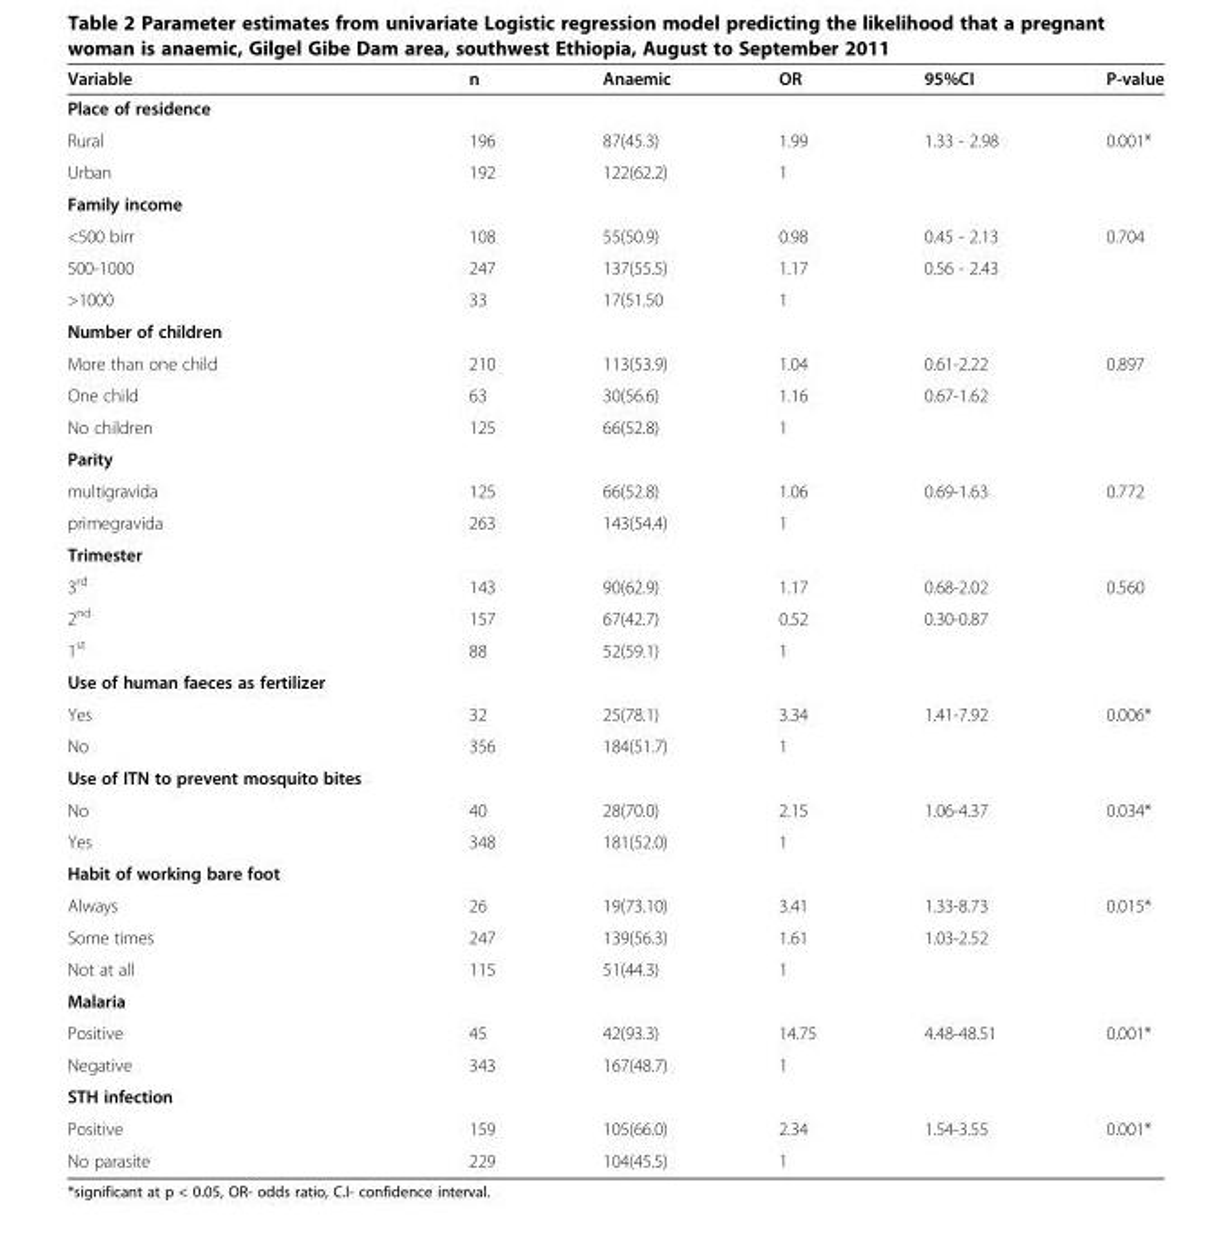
<table><thead><tr><td>Variable</td><td>n</td><td>Anaemic</td><td>OR</td><td>95%CI</td><td>P-value</td></tr></thead><tbody><tr><td colspan="6">Place of residence</td></tr><tr><td>Rural</td><td>196</td><td>87(45.3)</td><td>1.99</td><td>1.33 - 2.98</td><td>0.001*</td></tr><tr><td>Urban</td><td>192</td><td>122(62.2)</td><td>1</td><td></td><td></td></tr><tr><td colspan="6">Family income</td></tr><tr><td>&lt;500 birr</td><td>108</td><td>55(50.9)</td><td>0.98</td><td>0.45 - 2.13</td><td>0.704</td></tr><tr><td>500-1000</td><td>247</td><td>137(55.5)</td><td>1.17</td><td>0.56 - 2.43</td><td></td></tr><tr><td>&gt;1000</td><td>33</td><td>17(51.50</td><td>1</td><td></td><td></td></tr><tr><td colspan="6">Number of children</td></tr><tr><td>More than one child</td><td>210</td><td>113(53.9)</td><td>1.04</td><td>0.61-2.22</td><td>0.897</td></tr><tr><td>One child</td><td>63</td><td>30(56.6)</td><td>1.16</td><td>0.67-1.62</td><td></td></tr><tr><td>No children</td><td>125</td><td>66(52.8)</td><td>1</td><td></td><td></td></tr><tr><td colspan="6">Parity</td></tr><tr><td>multigravida</td><td>125</td><td>66(52.8)</td><td>1.06</td><td>0.69-1.63</td><td>0.772</td></tr><tr><td>primegravida</td><td>263</td><td>143(54.4)</td><td>1</td><td></td><td></td></tr><tr><td colspan="6">Trimester</td></tr><tr><td>3<sup>rd</sup></td><td>143</td><td>90(62.9)</td><td>1.17</td><td>0.68-2.02</td><td>0.560</td></tr><tr><td>2<sup>nd</sup></td><td>157</td><td>67(42.7)</td><td>0.52</td><td>0.30-0.87</td><td></td></tr><tr><td>1<sup>st</sup></td><td>88</td><td>52(59.1)</td><td>1</td><td></td><td></td></tr><tr><td colspan="6">Use of human faeces as fertilizer</td></tr><tr><td>Yes</td><td>32</td><td>25(78.1)</td><td>3.34</td><td>1.41-7.92</td><td>0.006*</td></tr><tr><td>No</td><td>356</td><td>184(51.7)</td><td>1</td><td></td><td></td></tr><tr><td colspan="6">Use of ITN to prevent mosquito bites</td></tr><tr><td>No</td><td>40</td><td>28(70.0)</td><td>2.15</td><td>1.06-4.37</td><td>0.034*</td></tr><tr><td>Yes</td><td>348</td><td>181(52.0)</td><td>1</td><td></td><td></td></tr><tr><td colspan="6">Habit of working bare foot</td></tr><tr><td>Always</td><td>26</td><td>19(73.10)</td><td>3.41</td><td>1.33-8.73</td><td>0.015*</td></tr><tr><td>Some times</td><td>247</td><td>139(56.3)</td><td>1.61</td><td>1.03-2.52</td><td></td></tr><tr><td>Not at all</td><td>115</td><td>51(44.3)</td><td>1</td><td></td><td></td></tr><tr><td colspan="6">Malaria</td></tr><tr><td>Positive</td><td>45</td><td>42(93.3)</td><td>14.75</td><td>4.48-48.51</td><td>0.001*</td></tr><tr><td>Negative</td><td>343</td><td>167(48.7)</td><td>1</td><td></td><td></td></tr><tr><td colspan="6">STH infection</td></tr><tr><td>Positive</td><td>159</td><td>105(66.0)</td><td>2.34</td><td>1.54-3.55</td><td>0.001*</td></tr><tr><td>No parasite</td><td>229</td><td>104(45.5)</td><td>1</td><td></td><td></td></tr></tbody></table>